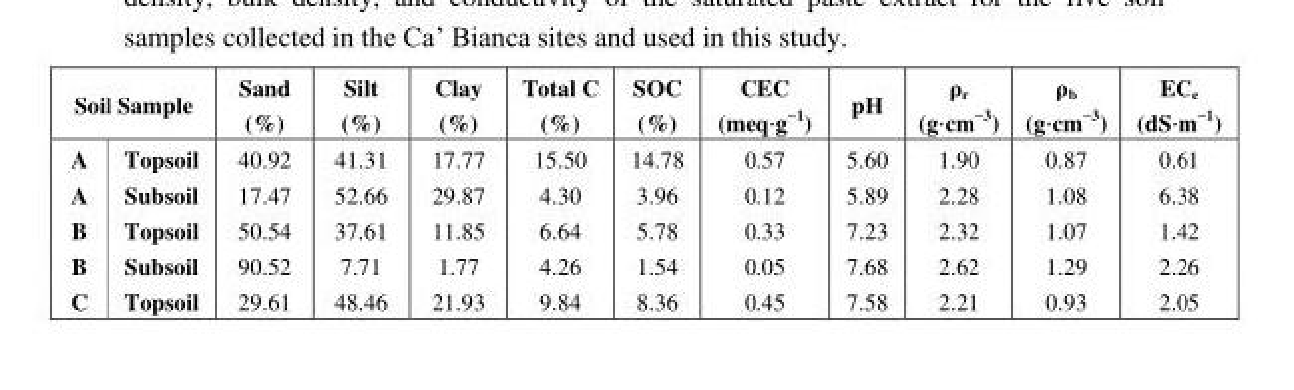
<table><thead><tr><td colspan="2">Soil Sample</td><td rowspan="2">Sand (%) 40.92</td><td rowspan="2">Silt (%) 41.31</td><td rowspan="2">Clay (%) 17.77</td><td rowspan="2">Total C (%) 15.50</td><td rowspan="2">SOC (%) 14.78</td><td rowspan="2">CEC (meq·g−1) 0.57</td><td rowspan="2">pH 5.60</td><td rowspan="2">ρr (g·cm−3) 1.90</td><td rowspan="2">ρb (g·cm−3) 0.87</td><td rowspan="2">ECe (dS·m−1) 0.61</td></tr><tr><td>A</td><td>Topsoil</td></tr></thead><tbody><tr><td>A</td><td>Subsoil</td><td>17.47</td><td>52.66</td><td>29.87</td><td>4.30</td><td>3.96</td><td>0.12</td><td>5.89</td><td>2.28</td><td>1.08</td><td>6.38</td></tr><tr><td>B</td><td>Topsoil</td><td>50.54</td><td>37.61</td><td>11.85</td><td>6.64</td><td>5.78</td><td>0.33</td><td>7.23</td><td>2.32</td><td>1.07</td><td>1.42</td></tr><tr><td>B</td><td>Subsoil</td><td>90.52</td><td>7.71</td><td>1.77</td><td>4.26</td><td>1.54</td><td>0.05</td><td>7.68</td><td>2.62</td><td>1.29</td><td>2.26</td></tr><tr><td>C</td><td>Topsoil</td><td>29.61</td><td>48.46</td><td>21.93</td><td>9.84</td><td>8.36</td><td>0.45</td><td>7.58</td><td>2.21</td><td>0.93</td><td>2.05</td></tr></tbody></table>